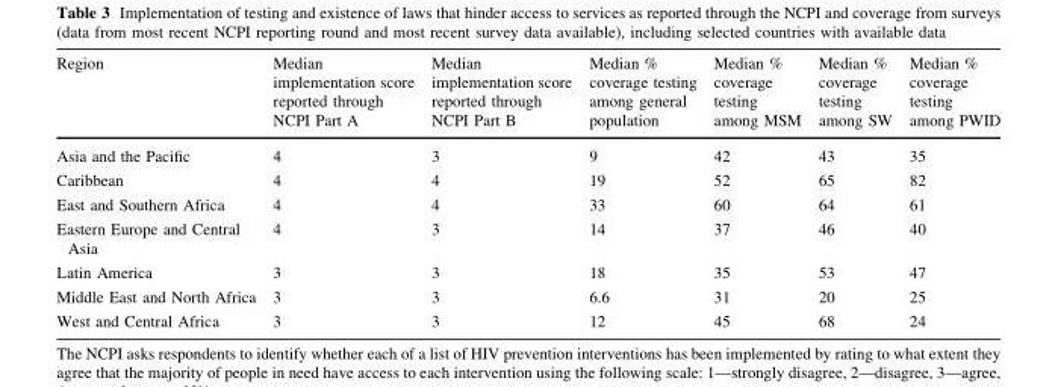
<table><thead><tr><td>Region</td><td>Median implementation score reported through NCPI Part A</td><td>Median implementation score reported through NCPI Part B</td><td>Median % coverage testing among general population</td><td>Median % coverage testing among MSM</td><td>Median % coverage testing among SW</td><td>Median % coverage testing among PWID</td></tr></thead><tbody><tr><td>Asia and the Pacific</td><td>4</td><td>3</td><td>9</td><td>42</td><td>43</td><td>35</td></tr><tr><td>Caribbean</td><td>4</td><td>4</td><td>19</td><td>52</td><td>65</td><td>82</td></tr><tr><td>East and Southern Africa</td><td>4</td><td>4</td><td>33</td><td>60</td><td>64</td><td>61</td></tr><tr><td>Eastern Europe and Central Asia</td><td>4</td><td>3</td><td>14</td><td>37</td><td>46</td><td>40</td></tr><tr><td>Latin America</td><td>3</td><td>3</td><td>18</td><td>35</td><td>53</td><td>47</td></tr><tr><td>Middle East and North Africa</td><td>3</td><td>3</td><td>6.6</td><td>31</td><td>20</td><td>25</td></tr><tr><td>West and Central Africa</td><td>3</td><td>3</td><td>12</td><td>45</td><td>68</td><td>24</td></tr></tbody></table>